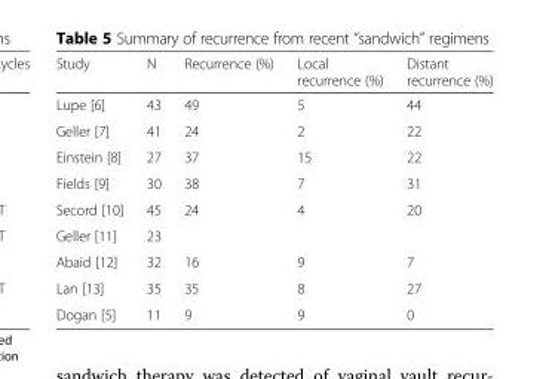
<table><thead><tr><td>Study</td><td>N</td><td>Recurrence (%)</td><td>Local recurrence (%)</td><td>Distant recurrence (%)</td></tr></thead><tbody><tr><td>Lupe [6]</td><td>43</td><td>49</td><td>5</td><td>44</td></tr><tr><td>Geller [7]</td><td>41</td><td>24</td><td>2</td><td>22</td></tr><tr><td>Einstein [8]</td><td>27</td><td>37</td><td>15</td><td>22</td></tr><tr><td>Fields [9]</td><td>30</td><td>38</td><td>7</td><td>31</td></tr><tr><td>Secord [10]</td><td>45</td><td>24</td><td>4</td><td>20</td></tr><tr><td>Geller [11]</td><td>23</td><td></td><td></td><td></td></tr><tr><td>Abaid [12]</td><td>32</td><td>16</td><td>9</td><td>7</td></tr><tr><td>Lan [13]</td><td>35</td><td>35</td><td>8</td><td>27</td></tr><tr><td>Dogan [5]</td><td>11</td><td>9</td><td>9</td><td>0</td></tr></tbody></table>